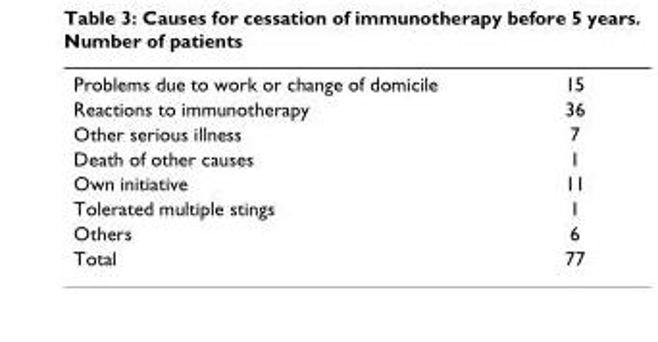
<table><tbody><tr><td>Problems due to work or change of domicile</td><td>15</td></tr><tr><td>Reactions to immunotherapy</td><td>36</td></tr><tr><td>Other serious illness</td><td>7</td></tr><tr><td>Death of other causes</td><td>1</td></tr><tr><td>Own initiative</td><td>11</td></tr><tr><td>Tolerated multiple stings</td><td>1</td></tr><tr><td>Others</td><td>6</td></tr><tr><td>Total</td><td>77</td></tr></tbody></table>